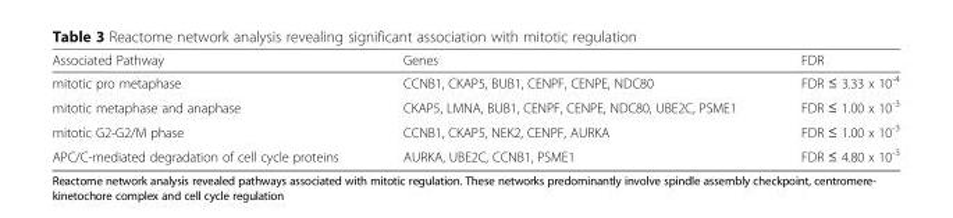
<table><thead><tr><td>Associated Pathway</td><td>Genes</td><td>FDR</td></tr></thead><tbody><tr><td>mitotic pro metaphase</td><td>CCNB1, CKAP5, BUB1, CENPF, CENPE, NDC80</td><td>FDR ≤ 3.33 x 10<sup>-4</sup></td></tr><tr><td>mitotic metaphase and anaphase</td><td>CKAP5, LMNA, BUB1, CENPF, CENPE, NDC80, UBE2C, PSME1</td><td>FDR ≤ 1.00 x 10<sup>-3</sup></td></tr><tr><td>mitotic G2-G2/M phase</td><td>CCNB1, CKAP5, NEK2, CENPF, AURKA</td><td>FDR ≤ 1.00 x 10<sup>-3</sup></td></tr><tr><td>APC/C-mediated degradation of cell cycle proteins</td><td>AURKA, UBE2C, CCNB1, PSME1</td><td>FDR ≤ 4.80 x 10<sup>-3</sup></td></tr></tbody></table>